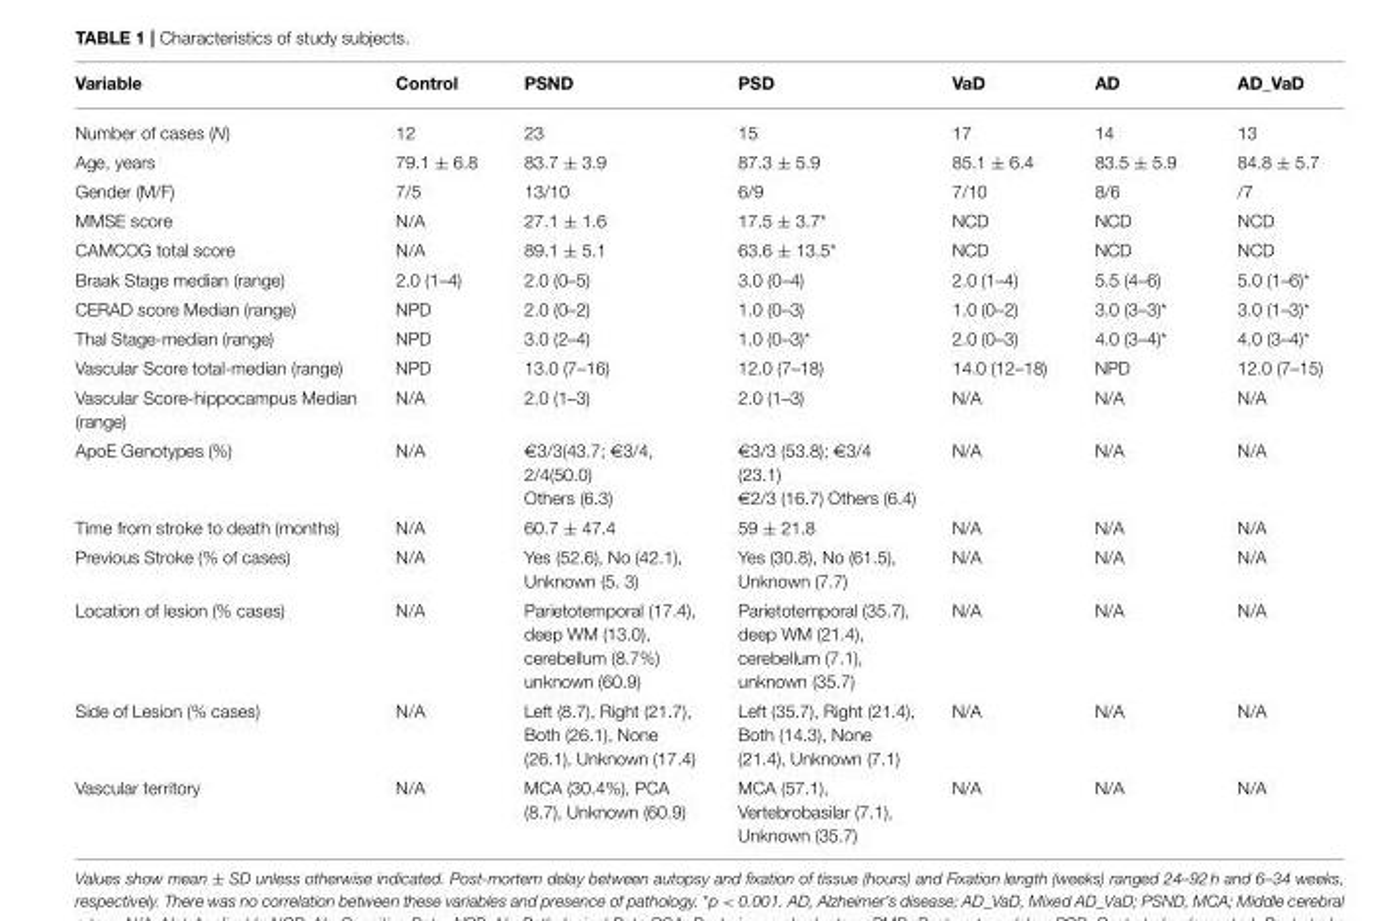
<table><thead><tr><td>Variable</td><td>Control</td><td>PSND</td><td>PSD</td><td>VaD</td><td>AD</td><td>AD_VaD</td></tr></thead><tbody><tr><td>Number of cases (N)</td><td>12</td><td>23</td><td>15</td><td>17</td><td>14</td><td>13</td></tr><tr><td>Age, years</td><td>79.1 ± 6.8</td><td>83.7 ± 3.9</td><td>87.3 ± 5.9</td><td>85.1 ± 6.4</td><td>83.5 ± 5.9</td><td>84.8 ± 5.7</td></tr><tr><td>Gender (M/F)</td><td>7/5</td><td>13/10</td><td>6/9</td><td>7/10</td><td>8/6</td><td>/7</td></tr><tr><td>MMSE score</td><td>N/A</td><td>27.1 ± 1.6</td><td>17.5 ± 3.7*</td><td>NCD</td><td>NCD</td><td>NCD</td></tr><tr><td>CAMCOG total score</td><td>N/A</td><td>89.1 ± 5.1</td><td>63.6 ± 13.5*</td><td>NCD</td><td>NCD</td><td>NCD</td></tr><tr><td>Braak Stage median (range)</td><td>2.0 (1–4)</td><td>2.0 (0–5)</td><td>3.0 (0–4)</td><td>2.0 (1–4)</td><td>5.5 (4–6)</td><td>5.0 (1–6)*</td></tr><tr><td>CERAD score Median (range)</td><td>NPD</td><td>2.0 (0–2)</td><td>1.0 (0–3)</td><td>1.0 (0–2)</td><td>3.0 (3–3)*</td><td>3.0 (1–3)*</td></tr><tr><td>Thal Stage-median (range)</td><td>NPD</td><td>3.0 (2–4)</td><td>1.0 (0–3)*</td><td>2.0 (0–3)</td><td>4.0 (3–4)*</td><td>4.0 (3–4)*</td></tr><tr><td>Vascular Score total-median (range)</td><td>NPD</td><td>13.0 (7–16)</td><td>12.0 (7–18)</td><td>14.0 (12–18)</td><td>NPD</td><td>12.0 (7–15)</td></tr><tr><td>Vascular Score-hippocampus Median (range)</td><td>N/A</td><td>2.0 (1–3)</td><td>2.0 (1–3)</td><td>N/A</td><td>N/A</td><td>N/A</td></tr><tr><td>ApoE Genotypes (%)</td><td>N/A</td><td>€3/3(43.7; €3/4, 2/4(50.0) Others (6.3)</td><td>€3/3 (53.8); €3/4 (23.1) €2/3 (16.7) Others (6.4)</td><td>N/A</td><td>N/A</td><td>N/A</td></tr><tr><td>Time from stroke to death (months)</td><td>N/A</td><td>60.7 ± 47.4</td><td>59 ± 21.8</td><td>N/A</td><td>N/A</td><td>N/A</td></tr><tr><td>Previous Stroke (% of cases)</td><td>N/A</td><td>Yes (52.6), No (42.1), Unknown (5. 3)</td><td>Yes (30.8), No (61.5), Unknown (7.7)</td><td>N/A</td><td>N/A</td><td>N/A</td></tr><tr><td>Location of lesion (% cases)</td><td>N/A</td><td>Parietotemporal (17.4), deep WM (13.0), cerebellum (8.7%) unknown (60.9)</td><td>Parietotemporal (35.7), deep WM (21.4), cerebellum (7.1), unknown (35.7)</td><td>N/A</td><td>N/A</td><td>N/A</td></tr><tr><td>Side of Lesion (% cases)</td><td>N/A</td><td>Left (8.7), Right (21.7), Both (26.1), None (26.1), Unknown (17.4)</td><td>Left (35.7), Right (21.4), Both (14.3), None (21.4), Unknown (7.1)</td><td>N/A</td><td>N/A</td><td>N/A</td></tr><tr><td>Vascular territory</td><td>N/A</td><td>MCA (30.4%), PCA (8.7), Unknown (60.9)</td><td>MCA (57.1), Vertebrobasilar (7.1), Unknown (35.7)</td><td>N/A</td><td>N/A</td><td>N/A</td></tr></tbody></table>